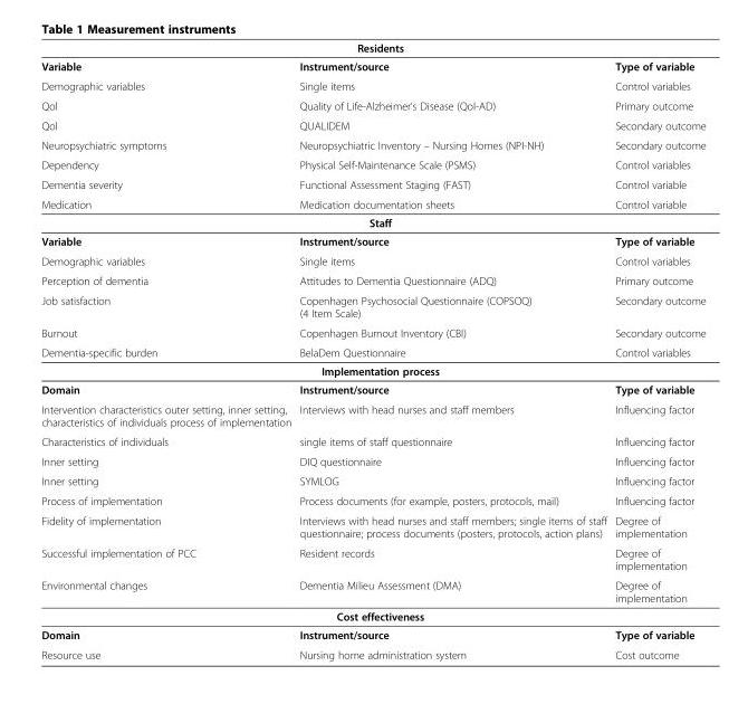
<table><thead><tr><td colspan="3">Residents</td></tr><tr><td>Variable</td><td>Instrument/source</td><td>Type of variable</td></tr></thead><tbody><tr><td>Demographic variables</td><td>Single items</td><td>Control variables</td></tr><tr><td>Qol</td><td>Quality of Life-Alzheimer’s Disease (Qol-AD)</td><td>Primary outcome</td></tr><tr><td>Qol</td><td>QUALIDEM</td><td>Secondary outcome</td></tr><tr><td>Neuropsychiatric symptoms</td><td>Neuropsychiatric Inventory – Nursing Homes (NPI-NH)</td><td>Secondary outcome</td></tr><tr><td>Dependency</td><td>Physical Self-Maintenance Scale (PSMS)</td><td>Control variables</td></tr><tr><td>Dementia severity</td><td>Functional Assessment Staging (FAST)</td><td>Control variable</td></tr><tr><td>Medication</td><td>Medication documentation sheets</td><td>Control variable</td></tr><tr><td colspan="3">Staff</td></tr><tr><td>Variable</td><td>Instrument/source</td><td>Type of variable</td></tr><tr><td>Demographic variables</td><td>Single items</td><td>Control variables</td></tr><tr><td>Perception of dementia</td><td>Attitudes to Dementia Questionnaire (ADQ)</td><td>Primary outcome</td></tr><tr><td>Job satisfaction</td><td>Copenhagen Psychosocial Questionnaire (COPSOQ) (4 Item Scale)</td><td>Secondary outcome</td></tr><tr><td>Burnout</td><td>Copenhagen Burnout Inventory (CBI)</td><td>Secondary outcome</td></tr><tr><td>Dementia-specific burden</td><td>BelaDem Questionnaire</td><td>Control variables</td></tr><tr><td colspan="3">Implementation process</td></tr><tr><td>Domain</td><td>Instrument/source</td><td>Type of variable</td></tr><tr><td>Intervention characteristics outer setting, inner setting, characteristics of individuals process of implementation</td><td>Interviews with head nurses and staff members</td><td>Influencing factor</td></tr><tr><td>Characteristics of individuals</td><td>single items of staff questionnaire</td><td>Influencing factor</td></tr><tr><td>Inner setting</td><td>DIQ questionnaire</td><td>Influencing factor</td></tr><tr><td>Inner setting</td><td>SYMLOG</td><td>Influencing factor</td></tr><tr><td>Process of implementation</td><td>Process documents (for example, posters, protocols, mail)</td><td>Influencing factor</td></tr><tr><td>Fidelity of implementation</td><td>Interviews with head nurses and staff members; single items of staff questionnaire; process documents (posters, protocols, action plans)</td><td>Degree of implementation</td></tr><tr><td>Successful implementation of PCC</td><td>Resident records</td><td>Degree of implementation</td></tr><tr><td>Environmental changes</td><td>Dementia Milieu Assessment (DMA)</td><td>Degree of implementation</td></tr><tr><td colspan="3">Cost effectiveness</td></tr><tr><td>Domain</td><td>Instrument/source</td><td>Type of variable</td></tr><tr><td>Resource use</td><td>Nursing home administration system</td><td>Cost outcome</td></tr></tbody></table>